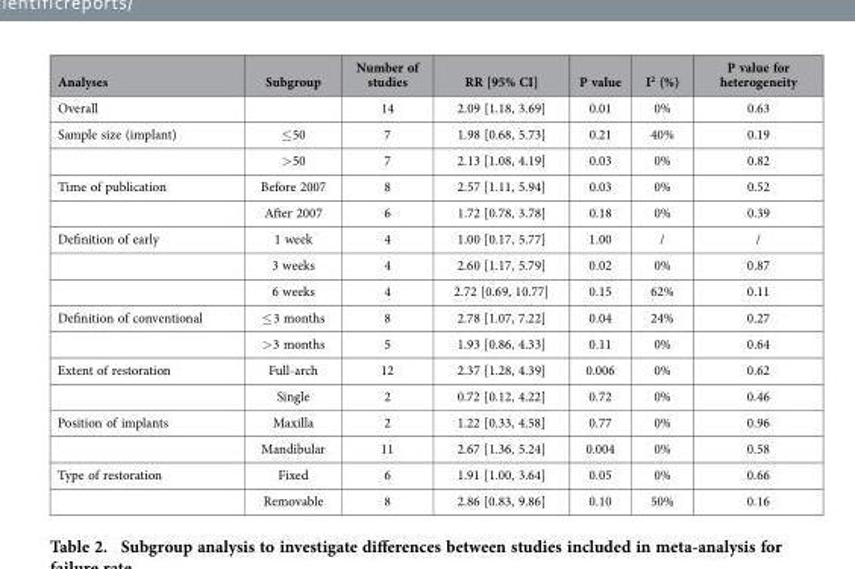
<table><thead><tr><td>Analyses</td><td>Subgroup</td><td>Number of studies</td><td>RR [95% CI]</td><td>P value</td><td>I<sup>2</sup> (%)</td><td>P value for heterogeneity</td></tr></thead><tbody><tr><td>Overall</td><td></td><td>14</td><td>2.09 [1.18, 3.69]</td><td>0.01</td><td>0%</td><td>0.63</td></tr><tr><td rowspan="2">Sample size (implant)</td><td>≤ 50</td><td>7</td><td>1.98 [0.68, 5.73]</td><td>0.21</td><td>40%</td><td>0.19</td></tr><tr><td>&gt; 50</td><td>7</td><td>2.13 [1.08, 4.19]</td><td>0.03</td><td>0%</td><td>0.82</td></tr><tr><td rowspan="2">Time of publication</td><td>Before 2007</td><td>8</td><td>2.57 [1.11, 5.94]</td><td>0.03</td><td>0%</td><td>0.52</td></tr><tr><td>After 2007</td><td>6</td><td>1.72 [0.78, 3.78]</td><td>0.18</td><td>0%</td><td>0.39</td></tr><tr><td rowspan="3">Definition of early</td><td>1 week</td><td>4</td><td>1.00 [0.17, 5.77]</td><td>1.00</td><td>/</td><td>/</td></tr><tr><td>3 weeks</td><td>4</td><td>2.60 [1.17, 5.79]</td><td>0.02</td><td>0%</td><td>0.87</td></tr><tr><td>6 weeks</td><td>4</td><td>2.72 [0.69, 10.77]</td><td>0.15</td><td>62%</td><td>0.11</td></tr><tr><td rowspan="2">Definition of conventional</td><td>≤ 3 months</td><td>8</td><td>2.78 [1.07, 7.22]</td><td>0.04</td><td>24%</td><td>0.27</td></tr><tr><td>&gt; 3 months</td><td>5</td><td>1.93 [0.86, 4.33]</td><td>0.11</td><td>0%</td><td>0.64</td></tr><tr><td rowspan="2">Extent of restoration</td><td>Full-arch</td><td>12</td><td>2.37 [1.28, 4.39]</td><td>0.006</td><td>0%</td><td>0.62</td></tr><tr><td>Single</td><td>2</td><td>0.72 [0.12, 4.22]</td><td>0.72</td><td>0%</td><td>0.46</td></tr><tr><td rowspan="2">Position of implants</td><td>Maxilla</td><td>2</td><td>1.22 [0.33, 4.58]</td><td>0.77</td><td>0%</td><td>0.96</td></tr><tr><td>Mandibular</td><td>11</td><td>2.67 [1.36, 5.24]</td><td>0.004</td><td>0%</td><td>0.58</td></tr><tr><td rowspan="2">Type of restoration</td><td>Fixed</td><td>6</td><td>1.91 [1.00, 3.64]</td><td>0.05</td><td>0%</td><td>0.66</td></tr><tr><td>Removable</td><td>8</td><td>2.86 [0.83, 9.86]</td><td>0.10</td><td>50%</td><td>0.16</td></tr></tbody></table>